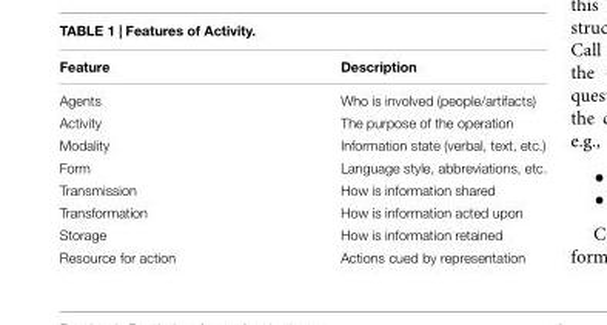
<table><thead><tr><td>Feature</td><td>Description</td></tr></thead><tbody><tr><td>Agents</td><td>Who is involved (people/artifacts)</td></tr><tr><td>Activity</td><td>The purpose of the operation</td></tr><tr><td>Modality</td><td>Information state (verbal, text, etc.)</td></tr><tr><td>Form</td><td>Language style, abbreviations, etc.</td></tr><tr><td>Transmission</td><td>How is information shared</td></tr><tr><td>Transformation</td><td>How is information acted upon</td></tr><tr><td>Storage</td><td>How is information retained</td></tr><tr><td>Resource for action</td><td>Actions cued by representation</td></tr></tbody></table>